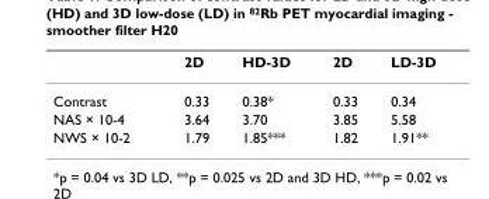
<table><thead><tr><td></td><td>2D</td><td>HD-3D</td><td>2D</td><td>LD-3D</td></tr></thead><tbody><tr><td>Contrast</td><td>0.33</td><td>0.38*</td><td>0.33</td><td>0.34</td></tr><tr><td>NAS × 10-4</td><td>3.64</td><td>3.70</td><td>3.85</td><td>5.58</td></tr><tr><td>NWS × 10-2</td><td>1.79</td><td>1.85***</td><td>1.82</td><td>1.91**</td></tr></tbody></table>